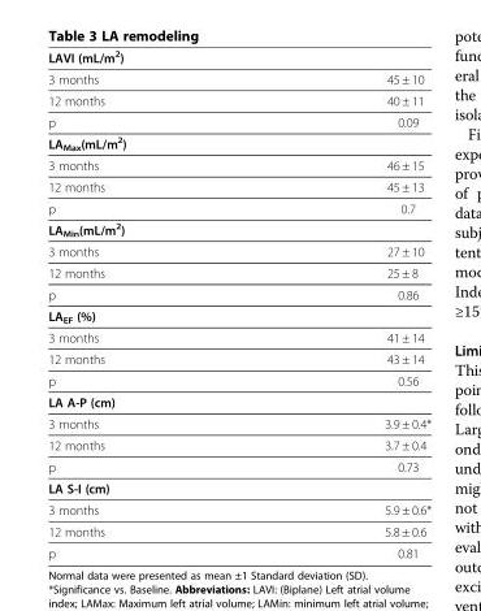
<table><thead><tr><td>LAVI (mL/m<sup>2</sup>)</td><td></td></tr></thead><tbody><tr><td>3 months</td><td>45 ± 10</td></tr><tr><td>12 months</td><td>40 ± 11</td></tr><tr><td>p</td><td>0.09</td></tr><tr><td colspan="2">LA<sub>Max</sub>(mL/m<sup>2</sup>)</td></tr><tr><td>3 months</td><td>46 ± 15</td></tr><tr><td>12 months</td><td>45 ± 13</td></tr><tr><td>p</td><td>0.7</td></tr><tr><td colspan="2">LA<sub>Min</sub>(mL/m<sup>2</sup>)</td></tr><tr><td>3 months</td><td>27 ± 10</td></tr><tr><td>12 months</td><td>25 ± 8</td></tr><tr><td>p</td><td>0.86</td></tr><tr><td colspan="2">LA<sub>EF</sub> (%)</td></tr><tr><td>3 months</td><td>41 ± 14</td></tr><tr><td>12 months</td><td>43 ± 14</td></tr><tr><td>p</td><td>0.56</td></tr><tr><td colspan="2">LA A-P (cm)</td></tr><tr><td>3 months</td><td>3.9 ± 0.4*</td></tr><tr><td>12 months</td><td>3.7 ± 0.4</td></tr><tr><td>p</td><td>0.73</td></tr><tr><td colspan="2">LA S-I (cm)</td></tr><tr><td>3 months</td><td>5.9 ± 0.6*</td></tr><tr><td>12 months</td><td>5.8 ± 0.6</td></tr><tr><td>p</td><td>0.81</td></tr></tbody></table>